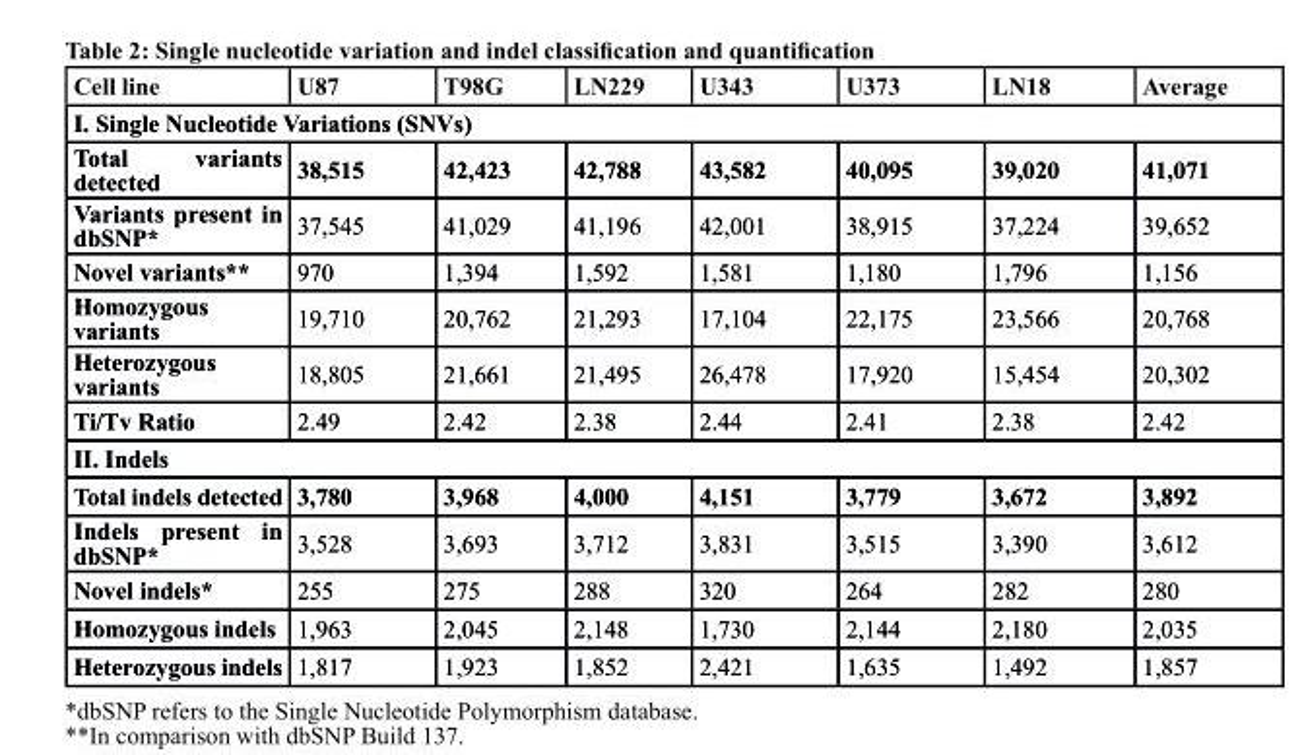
<table><thead><tr><td>cell line</td><td>U87</td><td>t98G</td><td>LN229</td><td>U343</td><td>U373</td><td>LN18</td><td>Average</td></tr></thead><tbody><tr><td colspan="8">I. Single Nucleotide Variations (SNVs)</td></tr><tr><td>Total variants detected</td><td>38,515</td><td>42,423</td><td>42,788</td><td>43,582</td><td>40,095</td><td>39,020</td><td>41,071</td></tr><tr><td>Variants present in dbSNP*</td><td>37,545</td><td>41,029</td><td>41,196</td><td>42,001</td><td>38,915</td><td>37,224</td><td>39,652</td></tr><tr><td>Novel variants**</td><td>970</td><td>1,394</td><td>1,592</td><td>1,581</td><td>1,180</td><td>1,796</td><td>1,156</td></tr><tr><td>Homozygous variants</td><td>19,710</td><td>20,762</td><td>21,293</td><td>17,104</td><td>22,175</td><td>23,566</td><td>20,768</td></tr><tr><td>Heterozygous variants</td><td>18,805</td><td>21,661</td><td>21,495</td><td>26,478</td><td>17,920</td><td>15,454</td><td>20,302</td></tr><tr><td>Ti/Tv Ratio</td><td>2.49</td><td>2.42</td><td>2.38</td><td>2.44</td><td>2.41</td><td>2.38</td><td>2.42</td></tr><tr><td colspan="8">II. Indels</td></tr><tr><td>Total indels detected</td><td>3,780</td><td>3,968</td><td>4,000</td><td>4,151</td><td>3,779</td><td>3,672</td><td>3,892</td></tr><tr><td>Indels present in dbSNP*</td><td>3,528</td><td>3,693</td><td>3,712</td><td>3,831</td><td>3,515</td><td>3,390</td><td>3,612</td></tr><tr><td>Novel indels*</td><td>255</td><td>275</td><td>288</td><td>320</td><td>264</td><td>282</td><td>280</td></tr><tr><td>Homozygous indels</td><td>1,963</td><td>2,045</td><td>2,148</td><td>1,730</td><td>2,144</td><td>2,180</td><td>2,035</td></tr><tr><td>Heterozygous indels</td><td>1,817</td><td>1,923</td><td>1,852</td><td>2,421</td><td>1,635</td><td>1,492</td><td>1,857</td></tr></tbody></table>